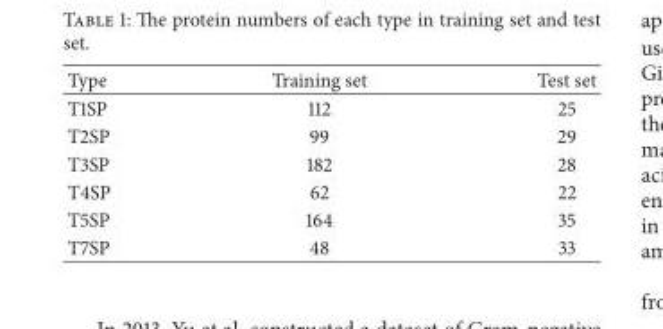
<table><thead><tr><td>Type</td><td>Training set</td><td>Test set</td></tr></thead><tbody><tr><td>T1SP</td><td>112</td><td>25</td></tr><tr><td>T2SP</td><td>99</td><td>29</td></tr><tr><td>T3SP</td><td>182</td><td>28</td></tr><tr><td>T4SP</td><td>62</td><td>22</td></tr><tr><td>T5SP</td><td>164</td><td>35</td></tr><tr><td>T7SP</td><td>48</td><td>33</td></tr></tbody></table>